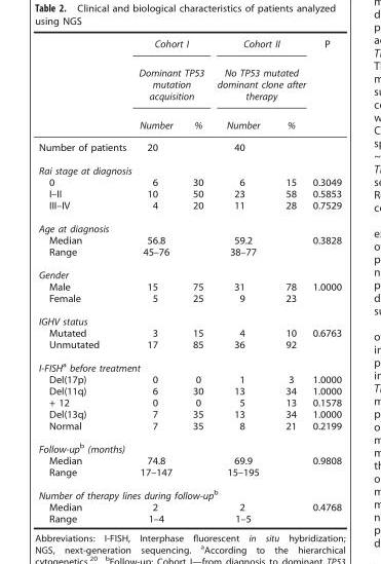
<table><thead><tr><td rowspan="3"></td><td rowspan="2" colspan="2">Cohort I Dominant TP53 mutation acquisition</td><td rowspan="2" colspan="2">Cohort II No TP53 mutated dominant clone after therapy</td><td rowspan="3">P</td></tr><tr></tr><tr><td>Number</td><td>%</td><td>Number</td><td>%</td></tr></thead><tbody><tr><td>Number of patients</td><td>20</td><td></td><td>40</td><td></td><td></td></tr><tr><td colspan="6">Rai stage at diagnosis</td></tr><tr><td>0</td><td>6</td><td>30</td><td>6</td><td>15</td><td>0.3049</td></tr><tr><td>I–II</td><td>10</td><td>50</td><td>23</td><td>58</td><td>0.5853</td></tr><tr><td>III–IV</td><td>4</td><td>20</td><td>11</td><td>28</td><td>0.7529</td></tr><tr><td colspan="6">Age at diagnosis</td></tr><tr><td>Median</td><td>56.8</td><td></td><td>59.2</td><td></td><td>0.3828</td></tr><tr><td>Range</td><td>45–76</td><td></td><td>38–77</td><td></td><td></td></tr><tr><td colspan="6">Gender</td></tr><tr><td>Male</td><td>15</td><td>75</td><td>31</td><td>78</td><td>1.0000</td></tr><tr><td>Female</td><td>5</td><td>25</td><td>9</td><td>23</td><td></td></tr><tr><td colspan="6">IGHV status</td></tr><tr><td>Mutated</td><td>3</td><td>15</td><td>4</td><td>10</td><td>0.6763</td></tr><tr><td>Unmutated</td><td>17</td><td>85</td><td>36</td><td>92</td><td></td></tr><tr><td colspan="6">I-FISH<sup>a</sup> before treatment</td></tr><tr><td>Del(17p)</td><td>0</td><td>0</td><td>1</td><td>3</td><td>1.0000</td></tr><tr><td>Del(11q)</td><td>6</td><td>30</td><td>13</td><td>34</td><td>1.0000</td></tr><tr><td>+ 12</td><td>0</td><td>0</td><td>5</td><td>13</td><td>0.1578</td></tr><tr><td>Del(13q)</td><td>7</td><td>35</td><td>13</td><td>34</td><td>1.0000</td></tr><tr><td>Normal</td><td>7</td><td>35</td><td>8</td><td>21</td><td>0.2199</td></tr><tr><td colspan="6">Follow-up<sup>b</sup> (months)</td></tr><tr><td>Median</td><td>74.8</td><td></td><td>69.9</td><td></td><td>0.9808</td></tr><tr><td>Range</td><td>17–147</td><td></td><td>15–195</td><td></td><td></td></tr><tr><td colspan="6">Number of therapy lines during follow-up<sup>b</sup></td></tr><tr><td>Median</td><td>2</td><td></td><td>2</td><td></td><td>0.4768</td></tr><tr><td>Range</td><td>1–4</td><td></td><td>1–5</td><td></td><td></td></tr></tbody></table>